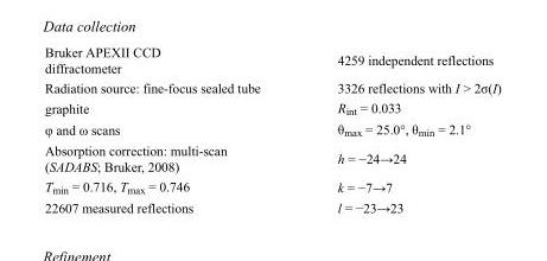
<table><tbody><tr><td>Bruker APEXII CCD diffractometer</td><td>4259 independent reflections</td></tr><tr><td>Radiation source: fine-focus sealed tube</td><td>3326 reflections with I &gt; 2σ(I)</td></tr><tr><td>graphite</td><td>R<sub>int</sub> = 0.033</td></tr><tr><td>φ and ω scans</td><td>θ<sub>max</sub> = 25.0°, θ<sub>min</sub> = 2.1°</td></tr><tr><td>Absorption correction: multi-scan (SADABS; Bruker, 2008)</td><td>h = −24→24</td></tr><tr><td>T<sub>min</sub> = 0.716, T<sub>max</sub> = 0.746</td><td>k = −7→7</td></tr><tr><td>22607 measured reflections</td><td>l = −23→23</td></tr></tbody></table>